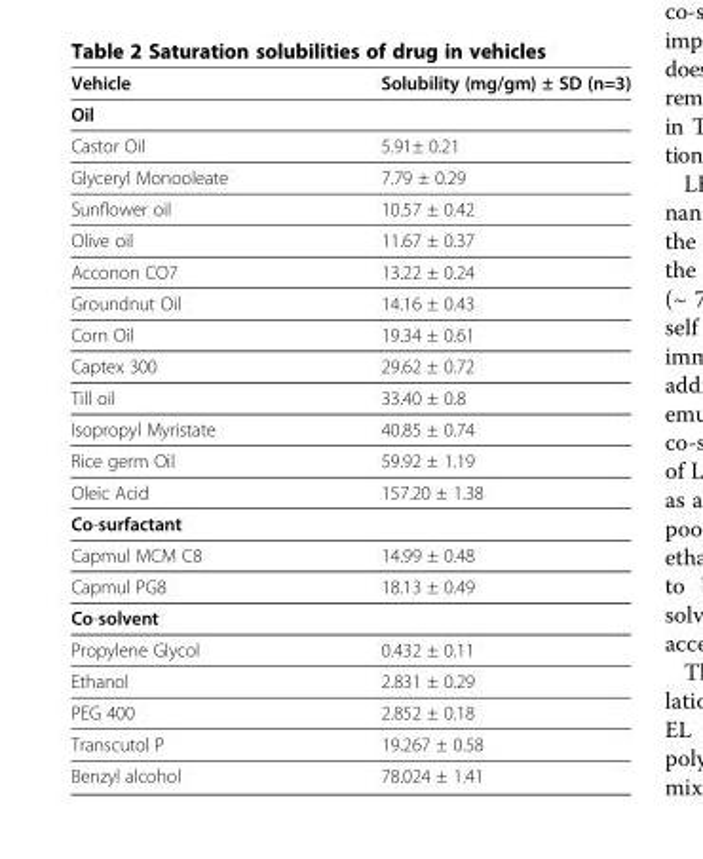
<table><thead><tr><td>Vehicle</td><td>Solubility (mg/gm) ± SD (n=3)</td></tr></thead><tbody><tr><td colspan="2">Oil</td></tr><tr><td>Castor Oil</td><td>5.91± 0.21</td></tr><tr><td>Glyceryl Monooleate</td><td>7.79 ± 0.29</td></tr><tr><td>Sunflower oil</td><td>10.57 ± 0.42</td></tr><tr><td>Olive oil</td><td>11.67 ± 0.37</td></tr><tr><td>Acconon CO7</td><td>13.22 ± 0.24</td></tr><tr><td>Groundnut Oil</td><td>14.16 ± 0.43</td></tr><tr><td>Corn Oil</td><td>19.34 ± 0.61</td></tr><tr><td>Captex 300</td><td>29.62 ± 0.72</td></tr><tr><td>Till oil</td><td>33.40 ± 0.8</td></tr><tr><td>Isopropyl Myristate</td><td>40.85 ± 0.74</td></tr><tr><td>Rice germ Oil</td><td>59.92 ± 1.19</td></tr><tr><td>Oleic Acid</td><td>157.20 ± 1.38</td></tr><tr><td colspan="2">Co-surfactant</td></tr><tr><td>Capmul MCM C8</td><td>14.99 ± 0.48</td></tr><tr><td>Capmul PG8</td><td>18.13 ± 0.49</td></tr><tr><td colspan="2">Co-solvent</td></tr><tr><td>Propylene Glycol</td><td>0.432 ± 0.11</td></tr><tr><td>Ethanol</td><td>2.831 ± 0.29</td></tr><tr><td>PEG 400</td><td>2.852 ± 0.18</td></tr><tr><td>Transcutol P</td><td>19.267 ± 0.58</td></tr><tr><td>Benzyl alcohol</td><td>78.024 ± 1.41</td></tr></tbody></table>